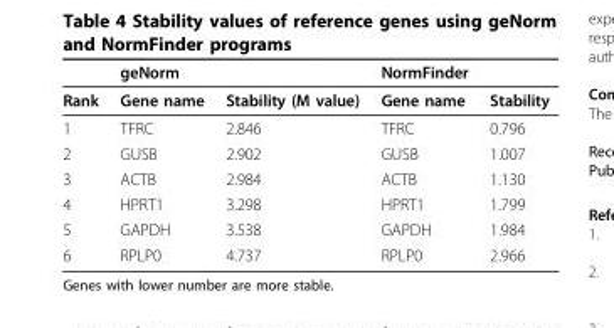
<table><thead><tr><td></td><td>geNorm</td><td></td><td>NormFinder</td><td></td></tr></thead><tbody><tr><td>Rank</td><td>Gene name</td><td>Stability (M value)</td><td>Gene name</td><td>Stability</td></tr><tr><td>1</td><td>TFRC</td><td>2.846</td><td>TFRC</td><td>0.796</td></tr><tr><td>2</td><td>GUSB</td><td>2.902</td><td>GUSB</td><td>1.007</td></tr><tr><td>3</td><td>ACTB</td><td>2.984</td><td>ACTB</td><td>1.130</td></tr><tr><td>4</td><td>HPRT1</td><td>3.298</td><td>HPRT1</td><td>1.799</td></tr><tr><td>5</td><td>GAPDH</td><td>3.538</td><td>GAPDH</td><td>1.984</td></tr><tr><td>6</td><td>RPLP0</td><td>4.737</td><td>RPLP0</td><td>2.966</td></tr></tbody></table>